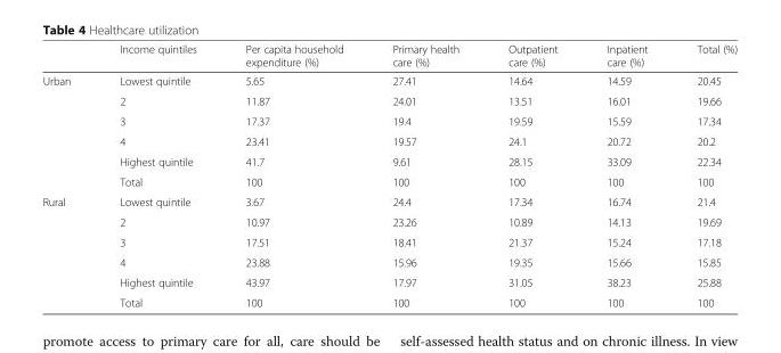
<table><thead><tr><td></td><td>Income quintiles</td><td>Per capita household expenditure (%)</td><td>Primary health care (%)</td><td>Outpatient care (%)</td><td>Inpatient care (%)</td><td>Total (%)</td></tr></thead><tbody><tr><td rowspan="6">Urban</td><td>Lowest quintile</td><td>5.65</td><td>27.41</td><td>14.64</td><td>14.59</td><td>20.45</td></tr><tr><td>2</td><td>11.87</td><td>24.01</td><td>13.51</td><td>16.01</td><td>19.66</td></tr><tr><td>3</td><td>17.37</td><td>19.4</td><td>19.59</td><td>15.59</td><td>17.34</td></tr><tr><td>4</td><td>23.41</td><td>19.57</td><td>24.1</td><td>20.72</td><td>20.2</td></tr><tr><td>Highest quintile</td><td>41.7</td><td>9.61</td><td>28.15</td><td>33.09</td><td>22.34</td></tr><tr><td>Total</td><td>100</td><td>100</td><td>100</td><td>100</td><td>100</td></tr><tr><td rowspan="6">Rural</td><td>Lowest quintile</td><td>3.67</td><td>24.4</td><td>17.34</td><td>16.74</td><td>21.4</td></tr><tr><td>2</td><td>10.97</td><td>23.26</td><td>10.89</td><td>14.13</td><td>19.69</td></tr><tr><td>3</td><td>17.51</td><td>18.41</td><td>21.37</td><td>15.24</td><td>17.18</td></tr><tr><td>4</td><td>23.88</td><td>15.96</td><td>19.35</td><td>15.66</td><td>15.85</td></tr><tr><td>Highest quintile</td><td>43.97</td><td>17.97</td><td>31.05</td><td>38.23</td><td>25.88</td></tr><tr><td>Total</td><td>100</td><td>100</td><td>100</td><td>100</td><td>100</td></tr></tbody></table>